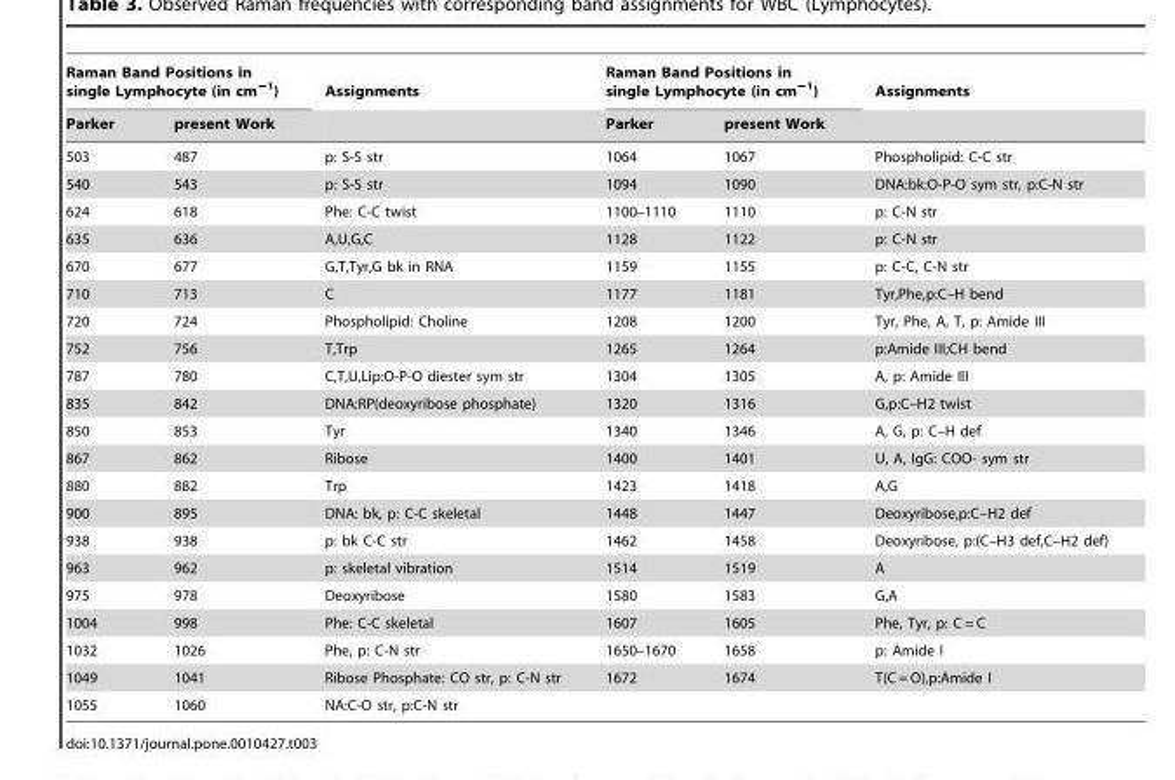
<table><thead><tr><td colspan="2">Raman Band Positions in single Lymphocyte (in cm<sup>−1</sup>)</td><td rowspan="2">Assignments</td><td colspan="2">Raman Band Positions in single Lymphocyte (in cm<sup>−1</sup>)</td><td rowspan="2">Assignments</td></tr><tr><td>Parker</td><td>present Work</td><td>Parker</td><td>present Work</td></tr></thead><tbody><tr><td>503</td><td>487</td><td>p: S-S str</td><td>1064</td><td>1067</td><td>Phospholipid: C-C str</td></tr><tr><td>540</td><td>543</td><td>p: S-S str</td><td>1094</td><td>1090</td><td>DNA:bk:O-P-O sym str, p:C-N str</td></tr><tr><td>624</td><td>618</td><td>Phe: C-C twist</td><td>1100–1110</td><td>1110</td><td>p: C-N str</td></tr><tr><td>635</td><td>636</td><td>A,U,G,C</td><td>1128</td><td>1122</td><td>p: C-N str</td></tr><tr><td>670</td><td>677</td><td>G,T,Tyr,G bk in RNA</td><td>1159</td><td>1155</td><td>p: C-C, C-N str</td></tr><tr><td>710</td><td>713</td><td>C</td><td>1177</td><td>1181</td><td>Tyr,Phe,p:C–H bend</td></tr><tr><td>720</td><td>724</td><td>Phospholipid: Choline</td><td>1208</td><td>1200</td><td>Tyr, Phe, A, T, p: Amide III</td></tr><tr><td>752</td><td>756</td><td>T,Trp</td><td>1265</td><td>1264</td><td>p:Amide III;CH bend</td></tr><tr><td>787</td><td>780</td><td>C,T,U,Lip:O-P-O diester sym str</td><td>1304</td><td>1305</td><td>A, p: Amide III</td></tr><tr><td>835</td><td>842</td><td>DNA:RP(deoxyribose phosphate)</td><td>1320</td><td>1316</td><td>G,p:C–H2 twist</td></tr><tr><td>850</td><td>853</td><td>Tyr</td><td>1340</td><td>1346</td><td>A, G, p: C–H def</td></tr><tr><td>867</td><td>862</td><td>Ribose</td><td>1400</td><td>1401</td><td>U, A, IgG: COO- sym str</td></tr><tr><td>880</td><td>882</td><td>Trp</td><td>1423</td><td>1418</td><td>A,G</td></tr><tr><td>900</td><td>895</td><td>DNA: bk, p: C-C skeletal</td><td>1448</td><td>1447</td><td>Deoxyribose,p:C–H2 def</td></tr><tr><td>938</td><td>938</td><td>p: bk C-C str</td><td>1462</td><td>1458</td><td>Deoxyribose, p:(C–H3 def,C–H2 def)</td></tr><tr><td>963</td><td>962</td><td>p: skeletal vibration</td><td>1514</td><td>1519</td><td>A</td></tr><tr><td>975</td><td>978</td><td>Deoxyribose</td><td>1580</td><td>1583</td><td>G,A</td></tr><tr><td>1004</td><td>998</td><td>Phe: C-C skeletal</td><td>1607</td><td>1605</td><td>Phe, Tyr, p: C = C</td></tr><tr><td>1032</td><td>1026</td><td>Phe, p: C-N str</td><td>1650–1670</td><td>1658</td><td>p: Amide I</td></tr><tr><td>1049</td><td>1041</td><td>Ribose Phosphate: CO str, p: C-N str</td><td>1672</td><td>1674</td><td>T(C = O),p:Amide I</td></tr><tr><td>1055</td><td>1060</td><td>NA:C-O str, p:C-N str</td><td></td><td></td><td></td></tr></tbody></table>